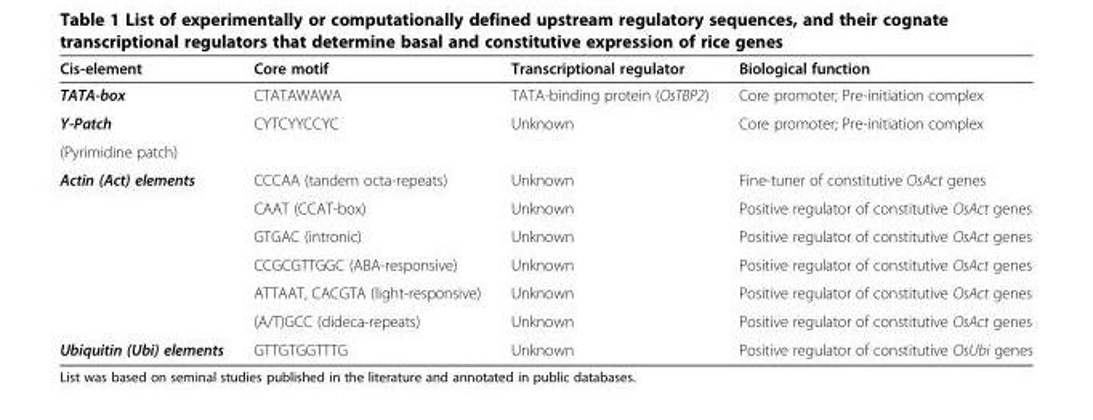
<table><thead><tr><td>Cis-element</td><td>Core motif</td><td>Transcriptional regulator</td><td>Biological function</td></tr></thead><tbody><tr><td>TATA-box</td><td>CTATAWAWA</td><td>TATA-binding protein (OsTBP2)</td><td>Core promoter; Pre-initiation complex</td></tr><tr><td>Y-Patch</td><td>CYTCYYCCYC</td><td>Unknown</td><td>Core promoter; Pre-initiation complex</td></tr><tr><td colspan="4">(Pyrimidine patch)</td></tr><tr><td rowspan="6">Actin (Act) elements</td><td>CCCAA (tandem octa-repeats)</td><td>Unknown</td><td>Fine-tuner of constitutive OsAct genes</td></tr><tr><td>CAAT (CCAT-box)</td><td>Unknown</td><td>Positive regulator of constitutive OsAct genes</td></tr><tr><td>GTGAC (intronic)</td><td>Unknown</td><td>Positive regulator of constitutive OsAct genes</td></tr><tr><td>CCGCGTTGGC (ABA-responsive)</td><td>Unknown</td><td>Positive regulator of constitutive OsAct genes</td></tr><tr><td>ATTAAT, CACGTA (light-responsive)</td><td>Unknown</td><td>Positive regulator of constitutive OsAct genes</td></tr><tr><td>(A/T)GCC (dideca-repeats)</td><td>Unknown</td><td>Positive regulator of constitutive OsAct genes</td></tr><tr><td>Ubiquitin (Ubi) elements</td><td>GTTGTGGTTTG</td><td>Unknown</td><td>Positive regulator of constitutive OsUbi genes</td></tr></tbody></table>